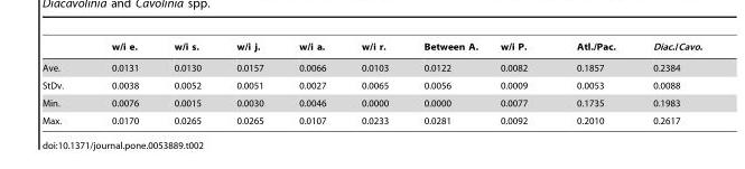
<table><thead><tr><td></td><td>w/i e.</td><td>w/i s.</td><td>w/i j.</td><td>w/i a.</td><td>w/i r.</td><td>Between A.</td><td>w/i P.</td><td>Atl./Pac.</td><td>Diac./Cavo.</td></tr></thead><tbody><tr><td>Ave.</td><td>0.0131</td><td>0.0130</td><td>0.0157</td><td>0.0066</td><td>0.0103</td><td>0.0122</td><td>0.0082</td><td>0.1857</td><td>0.2384</td></tr><tr><td>StDv.</td><td>0.0038</td><td>0.0052</td><td>0.0051</td><td>0.0027</td><td>0.0065</td><td>0.0056</td><td>0.0009</td><td>0.0053</td><td>0.0088</td></tr><tr><td>Min.</td><td>0.0076</td><td>0.0015</td><td>0.0030</td><td>0.0046</td><td>0.0000</td><td>0.0000</td><td>0.0077</td><td>0.1735</td><td>0.1983</td></tr><tr><td>Max.</td><td>0.0170</td><td>0.0265</td><td>0.0265</td><td>0.0107</td><td>0.0233</td><td>0.0281</td><td>0.0092</td><td>0.2010</td><td>0.2617</td></tr></tbody></table>